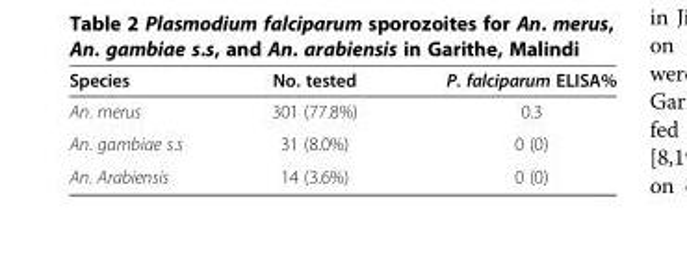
<table><thead><tr><td>Species</td><td>No. tested</td><td>P. falciparum ELISA%</td></tr></thead><tbody><tr><td>An. merus</td><td>301 (77.8%)</td><td>0.3</td></tr><tr><td>An. gambiae s.s</td><td>31 (8.0%)</td><td>0 (0)</td></tr><tr><td>An. Arabiensis</td><td>14 (3.6%)</td><td>0 (0)</td></tr></tbody></table>